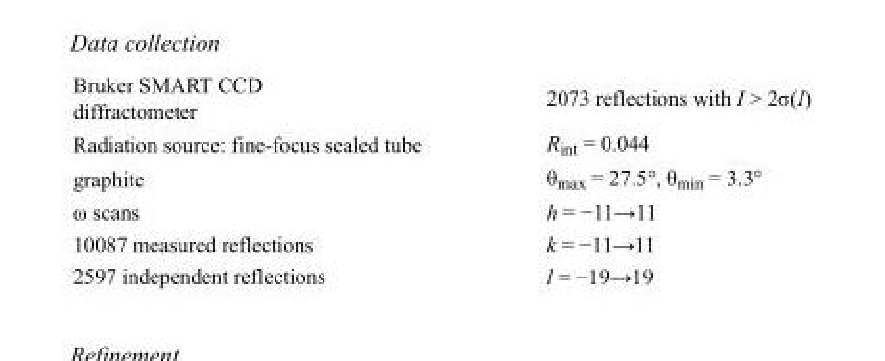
<table><tbody><tr><td>Bruker SMART CCD diffractometer</td><td>2073 reflections with I &gt; 2σ(I)</td></tr><tr><td>Radiation source: fine-focus sealed tube</td><td>R<sub>int</sub> = 0.044</td></tr><tr><td>graphite</td><td>θ<sub>max</sub> = 27.5°, θ<sub>min</sub> = 3.3°</td></tr><tr><td>ω scans</td><td>h = −11→11</td></tr><tr><td>10087 measured reflections</td><td>k = −11→11</td></tr><tr><td>2597 independent reflections</td><td>l = −19→19</td></tr></tbody></table>